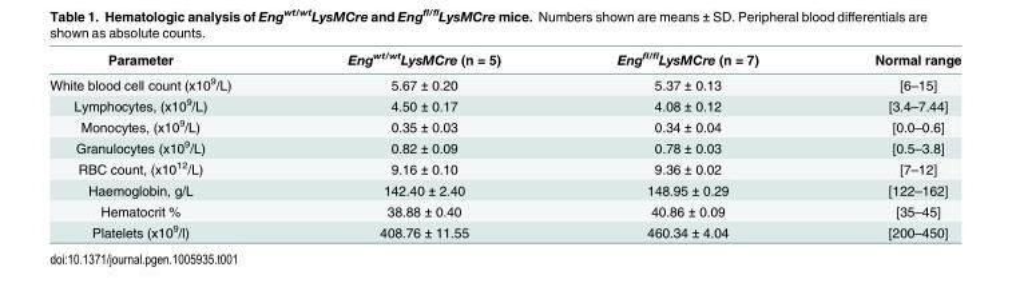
<table><thead><tr><td>Parameter</td><td>Eng<sup>wt/wt</sup>LysMCre (n = 5)</td><td>Eng<sup>fl/fl</sup>LysMCre (n = 7)</td><td>Normal range</td></tr></thead><tbody><tr><td>White blood cell count (x10<sup>9</sup>/L)</td><td>5.67 ± 0.20</td><td>5.37 ± 0.13</td><td>[6–15]</td></tr><tr><td>Lymphocytes, (x10<sup>9</sup>/L)</td><td>4.50 ± 0.17</td><td>4.08 ± 0.12</td><td>[3.4–7.44]</td></tr><tr><td>Monocytes, (x10<sup>9</sup>/L)</td><td>0.35 ± 0.03</td><td>0.34 ± 0.04</td><td>[0.0–0.6]</td></tr><tr><td>Granulocytes (x10<sup>9</sup>/L)</td><td>0.82 ± 0.09</td><td>0.78 ± 0.03</td><td>[0.5–3.8]</td></tr><tr><td>RBC count, (x10<sup>12</sup>/L)</td><td>9.16 ± 0.10</td><td>9.36 ± 0.02</td><td>[7–12]</td></tr><tr><td>Haemoglobin, g/L</td><td>142.40 ± 2.40</td><td>148.95 ± 0.29</td><td>[122–162]</td></tr><tr><td>Hematocrit %</td><td>38.88 ± 0.40</td><td>40.86 ± 0.09</td><td>[35–45]</td></tr><tr><td>Platelets (x10<sup>9</sup>/l)</td><td>408.76 ± 11.55</td><td>460.34 ± 4.04</td><td>[200–450]</td></tr></tbody></table>